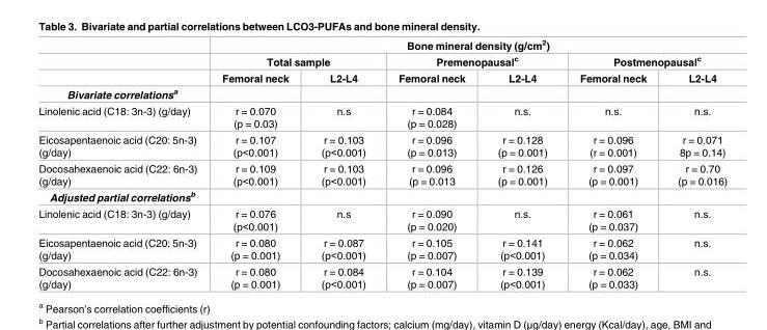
<table><thead><tr><td rowspan="3"></td><td colspan="6">Bone mineral density (g/cm<sup>2</sup>)</td></tr><tr><td colspan="2">Total sample</td><td colspan="2">Premenopausal<sup>c</sup></td><td colspan="2">Postmenopausal<sup>c</sup></td></tr><tr><td>Femoral neck</td><td>L2-L4</td><td>Femoral neck</td><td>L2-L4</td><td>Femoral neck</td><td>L2-L4</td></tr></thead><tbody><tr><td colspan="7">Bivariate correlations<sup>a</sup></td></tr><tr><td>Linolenic acid (C18: 3n-3) (g/day)</td><td>r = 0.070 (p = 0.03)</td><td>n.s</td><td>r = 0.084 (p = 0.028)</td><td>n.s.</td><td>n.s.</td><td>n.s.</td></tr><tr><td>Eicosapentaenoic acid (C20: 5n-3) (g/day)</td><td>r = 0.107 (p&lt;0.001)</td><td>r = 0.103 (p&lt;0.001)</td><td>r = 0.096 (p = 0.013)</td><td>r = 0.128 (p = 0.001)</td><td>r = 0.096 (r = 0.001)</td><td>r = 0.071 8p = 0.14)</td></tr><tr><td>Docosahexaenoic acid (C22: 6n-3) (g/day)</td><td>r = 0.109 (p&lt;0.001)</td><td>r = 0.103 (p&lt;0.001)</td><td>r = 0.096 (p = 0.013</td><td>r = 0.126 (p = 0.001)</td><td>r = 0.097 (p = 0.001)</td><td>r = 0.70 (p = 0.016)</td></tr><tr><td colspan="7">Adjusted partial correlations<sup>b</sup></td></tr><tr><td>Linolenic acid (C18: 3n-3) (g/day)</td><td>r = 0.076 (p&lt;0.001)</td><td>n.s</td><td>r = 0.090 (p = 0.020)</td><td>n.s.</td><td>r = 0.061 (p = 0.037)</td><td>n.s.</td></tr><tr><td>Eicosapentaenoic acid (C20: 5n-3) (g/day)</td><td>r = 0.080 (p = 0.001)</td><td>r = 0.087 (p&lt;0.001)</td><td>r = 0.105 (p = 0.007)</td><td>r = 0.141 (p&lt;0.001)</td><td>r = 0.062 (p = 0.034)</td><td>n.s.</td></tr><tr><td>Docosahexaenoic acid (C22: 6n-3) (g/day)</td><td>r = 0.080 (p = 0.001)</td><td>r = 0.084 (p&lt;0.001)</td><td>r = 0.104 (p = 0.007)</td><td>r = 0.139 (p&lt;0.001)</td><td>r = 0.062 (p = 0.033)</td><td>n.s.</td></tr></tbody></table>